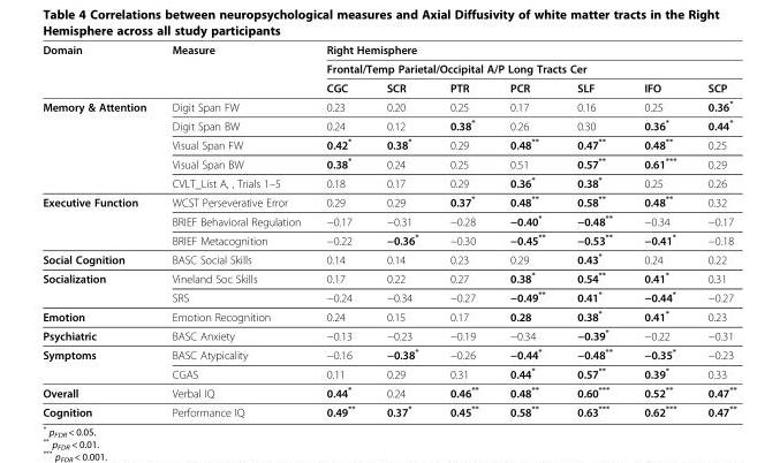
<table><thead><tr><td rowspan="3">Domain</td><td rowspan="3">Measure</td><td rowspan="2" colspan="7">Right Hemisphere Frontal/Temp Parietal/Occipital A/P Long Tracts Cer</td></tr><tr></tr><tr><td>CGC</td><td>SCR</td><td>PTR</td><td>PCR</td><td>SLF</td><td>IFO</td><td>SCP</td></tr></thead><tbody><tr><td rowspan="5">Memory &amp; Attention</td><td>Digit Span FW</td><td>0.23</td><td>0.20</td><td>0.25</td><td>0.17</td><td>0.16</td><td>0.25</td><td>0.36*</td></tr><tr><td>Digit Span BW</td><td>0.24</td><td>0.12</td><td>0.38*</td><td>0.26</td><td>0.30</td><td>0.36*</td><td>0.44*</td></tr><tr><td>Visual Span FW</td><td>0.42*</td><td>0.38*</td><td>0.29</td><td>0.48**</td><td>0.47**</td><td>0.48**</td><td>0.25</td></tr><tr><td>Visual Span BW</td><td>0.38*</td><td>0.24</td><td>0.25</td><td>0.51</td><td>0.57**</td><td>0.61***</td><td>0.29</td></tr><tr><td>CVLT_List A, , Trials 1–5</td><td>0.18</td><td>0.17</td><td>0.29</td><td>0.36*</td><td>0.38*</td><td>0.25</td><td>0.26</td></tr><tr><td rowspan="3">Executive Function</td><td>WCST Perseverative Error</td><td>0.29</td><td>0.29</td><td>0.37*</td><td>0.48**</td><td>0.58**</td><td>0.48**</td><td>0.32</td></tr><tr><td>BRIEF Behavioral Regulation</td><td>−0.17</td><td>−0.31</td><td>−0.28</td><td>−0.40*</td><td>−0.48**</td><td>−0.34</td><td>−0.17</td></tr><tr><td>BRIEF Metacognition</td><td>−0.22</td><td>−0.36*</td><td>−0.30</td><td>−0.45**</td><td>−0.53**</td><td>−0.41*</td><td>−0.18</td></tr><tr><td>Social Cognition</td><td>BASC Social Skills</td><td>0.14</td><td>0.14</td><td>0.23</td><td>0.29</td><td>0.43*</td><td>0.24</td><td>0.22</td></tr><tr><td rowspan="2">Socialization</td><td>Vineland Soc Skills</td><td>0.17</td><td>0.22</td><td>0.27</td><td>0.38*</td><td>0.54**</td><td>0.41*</td><td>0.31</td></tr><tr><td>SRS</td><td>−0.24</td><td>−0.34</td><td>−0.27</td><td>−0.49**</td><td>0.41*</td><td>−0.44*</td><td>−0.27</td></tr><tr><td>Emotion</td><td>Emotion Recognition</td><td>0.24</td><td>0.15</td><td>0.17</td><td>0.28</td><td>0.38*</td><td>0.41*</td><td>0.23</td></tr><tr><td>Psychiatric</td><td>BASC Anxiety</td><td>−0.13</td><td>−0.23</td><td>−0.19</td><td>−0.34</td><td>−0.39*</td><td>−0.22</td><td>−0.31</td></tr><tr><td rowspan="2">Symptoms</td><td>BASC Atypicality</td><td>−0.16</td><td>−0.38*</td><td>−0.26</td><td>−0.44*</td><td>−0.48**</td><td>−0.35*</td><td>−0.23</td></tr><tr><td>CGAS</td><td>0.11</td><td>0.29</td><td>0.31</td><td>0.44*</td><td>0.57**</td><td>0.39*</td><td>0.33</td></tr><tr><td>Overall</td><td>Verbal IQ</td><td>0.44*</td><td>0.24</td><td>0.46**</td><td>0.48**</td><td>0.60***</td><td>0.52**</td><td>0.47**</td></tr><tr><td>Cognition</td><td>Performance IQ</td><td>0.49**</td><td>0.37*</td><td>0.45**</td><td>0.58**</td><td>0.63***</td><td>0.62***</td><td>0.47**</td></tr></tbody></table>